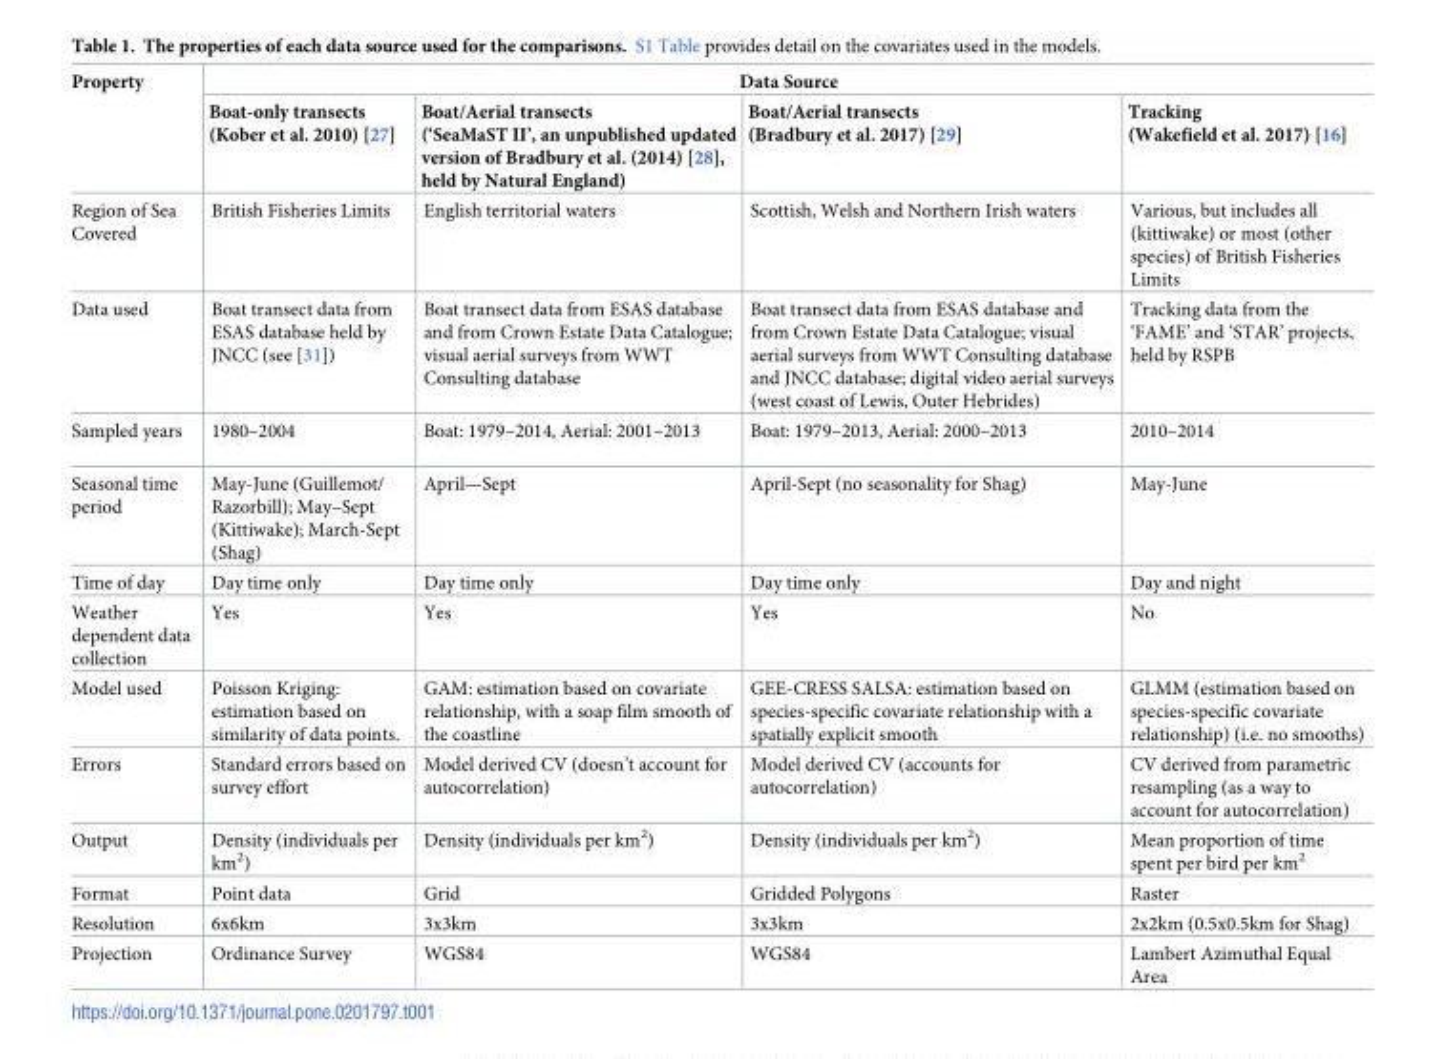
<table><thead><tr><td rowspan="2">Property</td><td colspan="4">Data Source</td></tr><tr><td>Boat-only transects (Kober et al. 2010) [27]</td><td>Boat/Aerial transects (‘SeaMaST II’, an unpublished updated version of Bradbury et al. (2014) [28], held by Natural England)</td><td>Boat/Aerial transects (Bradbury et al. 2017) [29]</td><td>Tracking (Wakefield et al. 2017) [16]</td></tr></thead><tbody><tr><td>Region of Sea Covered</td><td>British Fisheries Limits</td><td>English territorial waters</td><td>Scottish, Welsh and Northern Irish waters</td><td>Various, but includes all (kittiwake) or most (other species) of British Fisheries Limits</td></tr><tr><td>Data used</td><td>Boat transect data from ESAS database held by JNCC (see [31])</td><td>Boat transect data from ESAS database and from Crown Estate Data Catalogue; visual aerial surveys from WWT Consulting database</td><td>Boat transect data from ESAS database and from Crown Estate Data Catalogue; visual aerial surveys from WWT Consulting database and JNCC database; digital video aerial surveys (west coast of Lewis, Outer Hebrides)</td><td>Tracking data from the ‘FAME’ and ‘STAR’ projects, held by RSPB</td></tr><tr><td>Sampled years</td><td>1980–2004</td><td>Boat: 1979–2014, Aerial: 2001–2013</td><td>Boat: 1979–2013, Aerial: 2000–2013</td><td>2010–2014</td></tr><tr><td>Seasonal time period</td><td>May-June (Guillemot/ Razorbill); May–Sept (Kittiwake); March-Sept (Shag)</td><td>April—Sept</td><td>April-Sept (no seasonality for Shag)</td><td>May-June</td></tr><tr><td>Time of day</td><td>Day time only</td><td>Day time only</td><td>Day time only</td><td>Day and night</td></tr><tr><td>Weather dependent data collection</td><td>Yes</td><td>Yes</td><td>Yes</td><td>No</td></tr><tr><td>Model used</td><td>Poisson Kriging: estimation based on similarity of data points.</td><td>GAM: estimation based on covariate relationship, with a soap film smooth of the coastline</td><td>GEE-CRESS SALSA: estimation based on species-specific covariate relationship with a spatially explicit smooth</td><td>GLMM (estimation based on species-specific covariate relationship) (i.e. no smooths)</td></tr><tr><td>Errors</td><td>Standard errors based on survey effort</td><td>Model derived CV (doesn’t account for autocorrelation)</td><td>Model derived CV (accounts for autocorrelation)</td><td>CV derived from parametric resampling (as a way to account for autocorrelation)</td></tr><tr><td>Output</td><td>Density (individuals per km<sup>2</sup>)</td><td>Density (individuals per km<sup>2</sup>)</td><td>Density (individuals per km<sup>2</sup>)</td><td>Mean proportion of time spent per bird per km<sup>2</sup></td></tr><tr><td>Format</td><td>Point data</td><td>Grid</td><td>Gridded Polygons</td><td>Raster</td></tr><tr><td>Resolution</td><td>6x6km</td><td>3x3km</td><td>3x3km</td><td>2x2km (0.5x0.5km for Shag)</td></tr><tr><td>Projection</td><td>Ordinance Survey</td><td>WGS84</td><td>WGS84</td><td>Lambert Azimuthal Equal Area</td></tr></tbody></table>